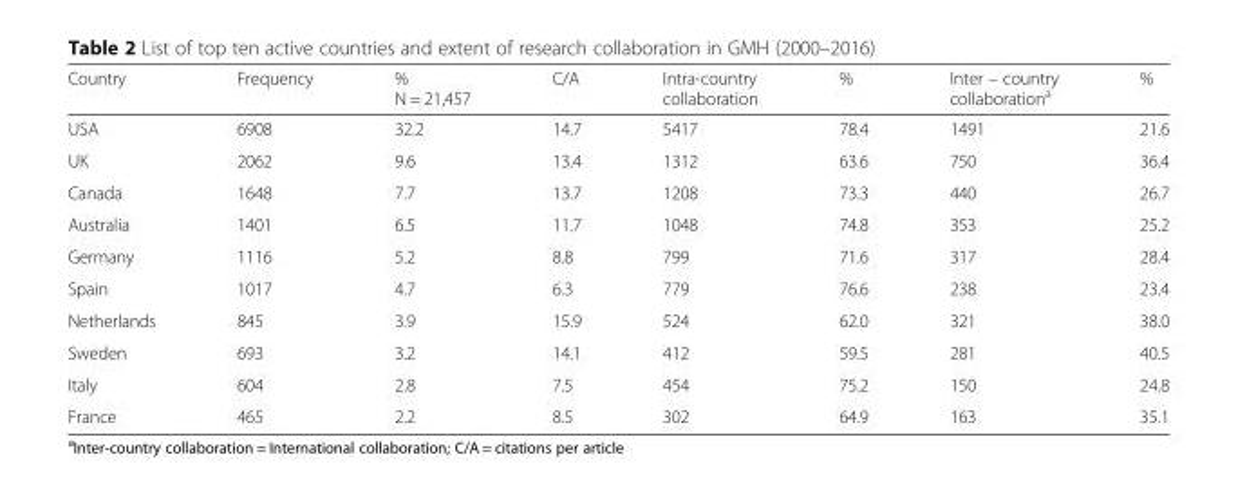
<table><thead><tr><td>Country</td><td>Frequency</td><td>% N = 21,457</td><td>C/A</td><td>Intra-country collaboration</td><td>%</td><td>Inter – country collaboration<sup>a</sup></td><td>%</td></tr></thead><tbody><tr><td>USA</td><td>6908</td><td>32.2</td><td>14.7</td><td>5417</td><td>78.4</td><td>1491</td><td>21.6</td></tr><tr><td>UK</td><td>2062</td><td>9.6</td><td>13.4</td><td>1312</td><td>63.6</td><td>750</td><td>36.4</td></tr><tr><td>Canada</td><td>1648</td><td>7.7</td><td>13.7</td><td>1208</td><td>73.3</td><td>440</td><td>26.7</td></tr><tr><td>Australia</td><td>1401</td><td>6.5</td><td>11.7</td><td>1048</td><td>74.8</td><td>353</td><td>25.2</td></tr><tr><td>Germany</td><td>1116</td><td>5.2</td><td>8.8</td><td>799</td><td>71.6</td><td>317</td><td>28.4</td></tr><tr><td>Spain</td><td>1017</td><td>4.7</td><td>6.3</td><td>779</td><td>76.6</td><td>238</td><td>23.4</td></tr><tr><td>Netherlands</td><td>845</td><td>3.9</td><td>15.9</td><td>524</td><td>62.0</td><td>321</td><td>38.0</td></tr><tr><td>Sweden</td><td>693</td><td>3.2</td><td>14.1</td><td>412</td><td>59.5</td><td>281</td><td>40.5</td></tr><tr><td>Italy</td><td>604</td><td>2.8</td><td>7.5</td><td>454</td><td>75.2</td><td>150</td><td>24.8</td></tr><tr><td>France</td><td>465</td><td>2.2</td><td>8.5</td><td>302</td><td>64.9</td><td>163</td><td>35.1</td></tr></tbody></table>